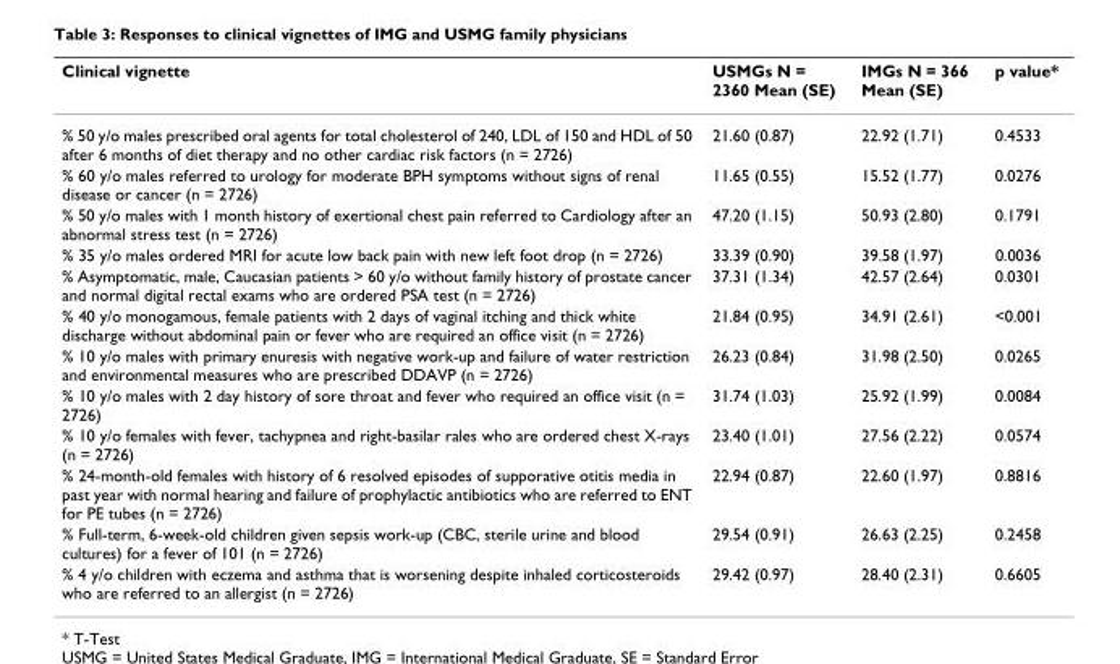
<table><thead><tr><td>Clinical vignette</td><td>USMGs N = 2360 Mean (SE)</td><td>IMGs N = 366 Mean (SE)</td><td>p value*</td></tr></thead><tbody><tr><td>% 50 y/o males prescribed oral agents for total cholesterol of 240, LDL of 150 and HDL of 50 after 6 months of diet therapy and no other cardiac risk factors (n = 2726)</td><td>21.60 (0.87)</td><td>22.92 (1.71)</td><td>0.4533</td></tr><tr><td>% 60 y/o males referred to urology for moderate BPH symptoms without signs of renal disease or cancer (n = 2726)</td><td>11.65 (0.55)</td><td>15.52 (1.77)</td><td>0.0276</td></tr><tr><td>% 50 y/o males with 1 month history of exertional chest pain referred to Cardiology after an abnormal stress test (n = 2726)</td><td>47.20 (1.15)</td><td>50.93 (2.80)</td><td>0.1791</td></tr><tr><td>% 35 y/o males ordered MRI for acute low back pain with new left foot drop (n = 2726)</td><td>33.39 (0.90)</td><td>39.58 (1.97)</td><td>0.0036</td></tr><tr><td>% Asymptomatic, male, Caucasian patients &gt; 60 y/o without family history of prostate cancer and normal digital rectal exams who are ordered PSA test (n = 2726)</td><td>37.31 (1.34)</td><td>42.57 (2.64)</td><td>0.0301</td></tr><tr><td>% 40 y/o monogamous, female patients with 2 days of vaginal itching and thick white discharge without abdominal pain or fever who are required an office visit (n = 2726)</td><td>21.84 (0.95)</td><td>34.91 (2.61)</td><td>&lt;0.001</td></tr><tr><td>% 10 y/o males with primary enuresis with negative work-up and failure of water restriction and environmental measures who are prescribed DDAVP (n = 2726)</td><td>26.23 (0.84)</td><td>31.98 (2.50)</td><td>0.0265</td></tr><tr><td>% 10 y/o males with 2 day history of sore throat and fever who required an office visit (n = 2726)</td><td>31.74 (1.03)</td><td>25.92 (1.99)</td><td>0.0084</td></tr><tr><td>% 10 y/o females with fever, tachypnea and right-basilar rales who are ordered chest X-rays (n = 2726)</td><td>23.40 (1.01)</td><td>27.56 (2.22)</td><td>0.0574</td></tr><tr><td>% 24-month-old females with history of 6 resolved episodes of supporative otitis media in past year with normal hearing and failure of prophylactic antibiotics who are referred to ENT for PE tubes (n = 2726)</td><td>22.94 (0.87)</td><td>22.60 (1.97)</td><td>0.8816</td></tr><tr><td>% Full-term, 6-week-old children given sepsis work-up (CBC, sterile urine and blood cultures) for a fever of 101 (n = 2726)</td><td>29.54 (0.91)</td><td>26.63 (2.25)</td><td>0.2458</td></tr><tr><td>% 4 y/o children with eczema and asthma that is worsening despite inhaled corticosteroids who are referred to an allergist (n = 2726)</td><td>29.42 (0.97)</td><td>28.40 (2.31)</td><td>0.6605</td></tr></tbody></table>